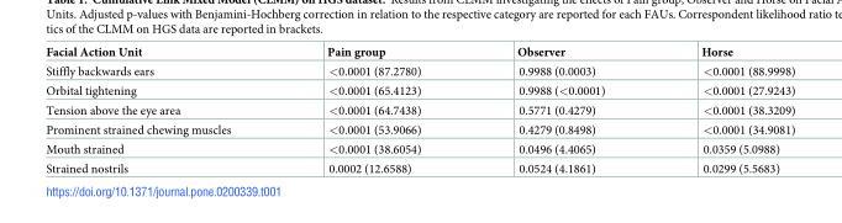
<table><thead><tr><td>Facial Action Unit</td><td>Pain group</td><td>Observer</td><td>Horse</td></tr></thead><tbody><tr><td>Stiffly backwards ears</td><td>&lt;0.0001 (87.2780)</td><td>0.9988 (0.0003)</td><td>&lt;0.0001 (88.9998)</td></tr><tr><td>Orbital tightening</td><td>&lt;0.0001 (65.4123)</td><td>0.9988 (&lt;0.0001)</td><td>&lt;0.0001 (27.9243)</td></tr><tr><td>Tension above the eye area</td><td>&lt;0.0001 (64.7438)</td><td>0.5771 (0.4279)</td><td>&lt;0.0001 (38.3209)</td></tr><tr><td>Prominent strained chewing muscles</td><td>&lt;0.0001 (53.9066)</td><td>0.4279 (0.8498)</td><td>&lt;0.0001 (34.9081)</td></tr><tr><td>Mouth strained</td><td>&lt;0.0001 (38.6054)</td><td>0.0496 (4.4065)</td><td>0.0359 (5.0988)</td></tr><tr><td>Strained nostrils</td><td>0.0002 (12.6588)</td><td>0.0524 (4.1861)</td><td>0.0299 (5.5683)</td></tr></tbody></table>